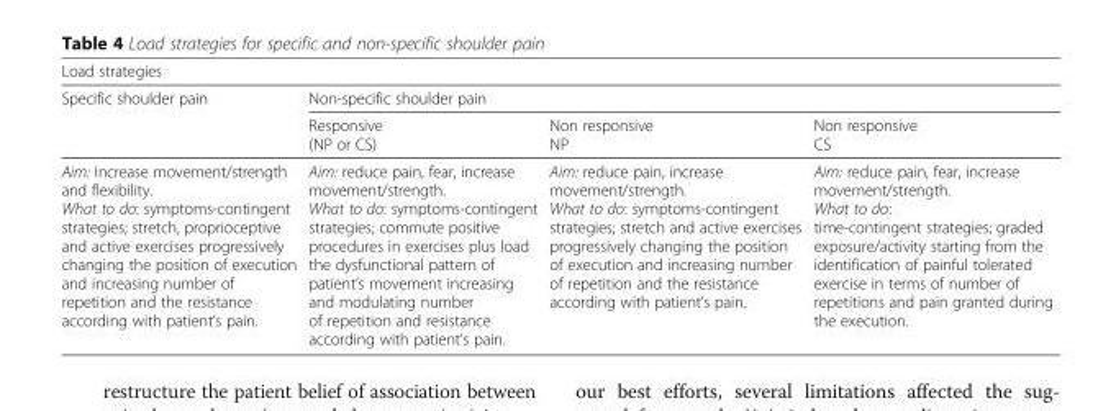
<table><thead><tr><td colspan="4">Load strategies</td></tr><tr><td rowspan="2">Specific shoulder pain</td><td colspan="3">Non-specific shoulder pain</td></tr><tr><td>Responsive (NP or CS)</td><td>Non responsive NP</td><td>Non responsive CS</td></tr></thead><tbody><tr><td>Aim: Increase movement/strength and flexibility. What to do: symptoms-contingent strategies; stretch, proprioceptive and active exercises progressively changing the position of execution and increasing number of repetition and the resistance according with patient’s pain.</td><td>Aim: reduce pain, fear, increase movement/strength. What to do: symptoms-contingent strategies; commute positive procedures in exercises plus load the dysfunctional pattern of patient’s movement increasing and modulating number of repetition and resistance according with patient’s pain.</td><td>Aim: reduce pain, increase movement/strength. What to do: symptoms-contingent strategies; stretch and active exercises progressively changing the position of execution and increasing number of repetition and the resistance according with patient’s pain.</td><td>Aim: reduce pain, fear, increase movement/strength. What to do: time-contingent strategies; graded exposure/activity starting from the identification of painful tolerated exercise in terms of number of repetitions and pain granted during the execution.</td></tr></tbody></table>